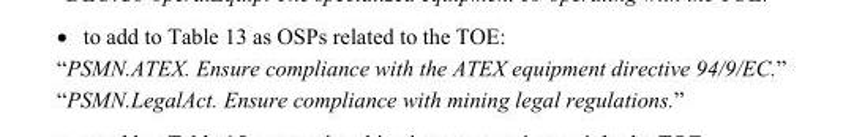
<table><tbody><tr><td>“PSMN.ATEX.</td><td>Ensure compliance with the ATEX equipment directive 94/9/EC.”</td></tr></tbody></table>